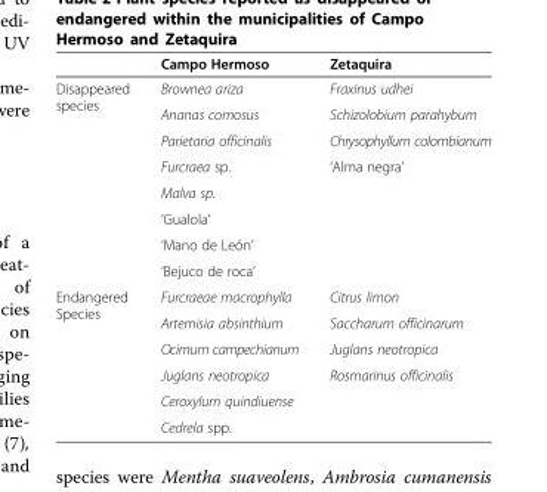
<table><thead><tr><td></td><td>Campo Hermoso</td><td>Zetaquira</td></tr></thead><tbody><tr><td rowspan="8">Disappeared species</td><td>Brownea ariza</td><td>Fraxinus udhei</td></tr><tr><td>Ananas comosus</td><td>Schizolobium parahybum</td></tr><tr><td>Parietaria officinalis</td><td>Chrysophyllum colombianum</td></tr><tr><td>Furcraea sp.</td><td>‘Alma negra’</td></tr><tr><td>Malva sp.</td><td></td></tr><tr><td>‘Gualola’</td><td></td></tr><tr><td>‘Mano de León’</td><td></td></tr><tr><td>‘Bejuco de roca’</td><td></td></tr><tr><td rowspan="6">Endangered Species</td><td>Furcraeae macrophylla</td><td>Citrus limon</td></tr><tr><td>Artemisia absinthium</td><td>Saccharum officinarum</td></tr><tr><td>Ocimum campechianum</td><td>Juglans neotropica</td></tr><tr><td>Juglans neotropica</td><td>Rosmarinus officinalis</td></tr><tr><td>Ceroxylum quindiuense</td><td></td></tr><tr><td>Cedrela spp.</td><td></td></tr></tbody></table>